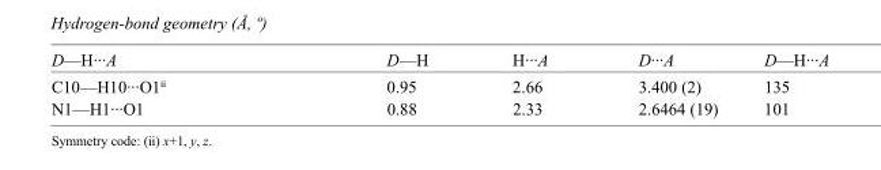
<table><tbody><tr><td>D—H···A</td><td>D—H</td><td>H···A</td><td>D···A</td><td>D—H···A</td></tr><tr><td>C10—H10···O1<sup>ii</sup></td><td>0.95</td><td>2.66</td><td>3.400 (2)</td><td>135</td></tr><tr><td>N1—H1···O1</td><td>0.88</td><td>2.33</td><td>2.6464 (19)</td><td>101</td></tr></tbody></table>